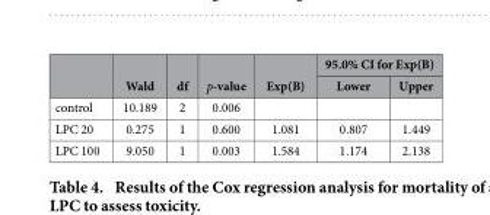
<table><thead><tr><td rowspan="2"></td><td rowspan="2">Wald</td><td rowspan="2">df</td><td rowspan="2">p-value</td><td rowspan="2">Exp(B)</td><td colspan="2">95.0% CI for Exp(B)</td></tr><tr><td>Lower</td><td>Upper</td></tr></thead><tbody><tr><td>control</td><td>10.189</td><td>2</td><td>0.006</td><td></td><td></td><td></td></tr><tr><td>LPC 20</td><td>0.275</td><td>1</td><td>0.600</td><td>1.081</td><td>0.807</td><td>1.449</td></tr><tr><td>LPC 100</td><td>9.050</td><td>1</td><td>0.003</td><td>1.584</td><td>1.174</td><td>2.138</td></tr></tbody></table>